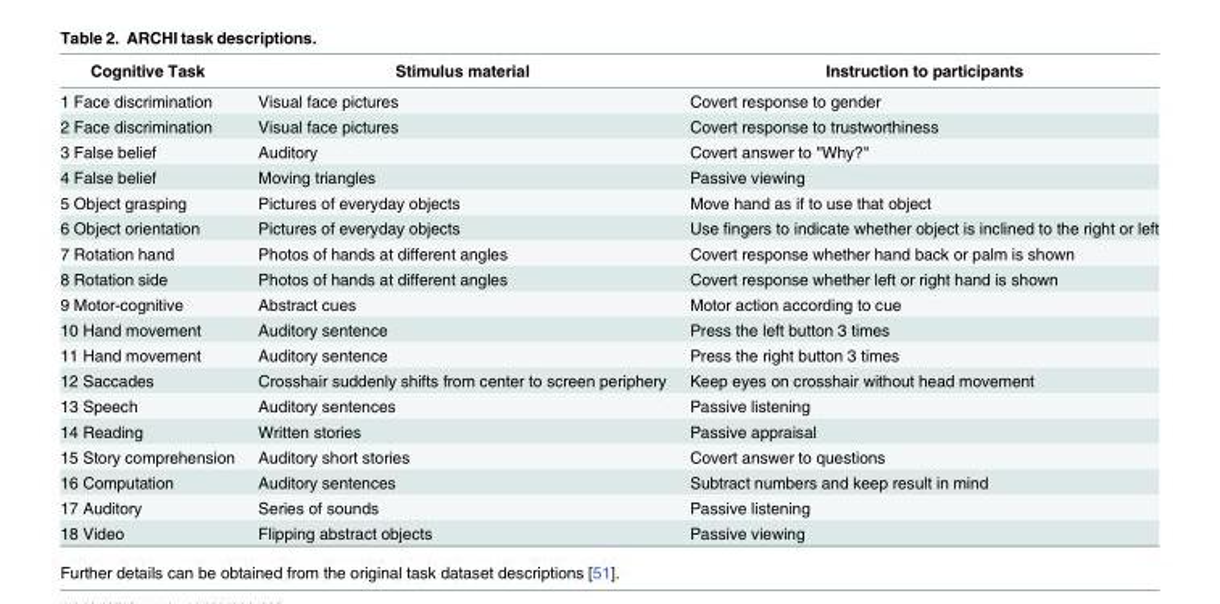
<table><thead><tr><td>Cognitive Task</td><td>Stimulus material</td><td>Instruction to participants</td></tr></thead><tbody><tr><td>1 Face discrimination</td><td>Visual face pictures</td><td>Covert response to gender</td></tr><tr><td>2 Face discrimination</td><td>Visual face pictures</td><td>Covert response to trustworthiness</td></tr><tr><td>3 False belief</td><td>Auditory</td><td>Covert answer to &quot;Why?&quot;</td></tr><tr><td>4 False belief</td><td>Moving triangles</td><td>Passive viewing</td></tr><tr><td>5 Object grasping</td><td>Pictures of everyday objects</td><td>Move hand as if to use that object</td></tr><tr><td>6 Object orientation</td><td>Pictures of everyday objects</td><td>Use fingers to indicate whether object is inclined to the right or left</td></tr><tr><td>7 Rotation hand</td><td>Photos of hands at different angles</td><td>Covert response whether hand back or palm is shown</td></tr><tr><td>8 Rotation side</td><td>Photos of hands at different angles</td><td>Covert response whether left or right hand is shown</td></tr><tr><td>9 Motor-cognitive</td><td>Abstract cues</td><td>Motor action according to cue</td></tr><tr><td>10 Hand movement</td><td>Auditory sentence</td><td>Press the left button 3 times</td></tr><tr><td>11 Hand movement</td><td>Auditory sentence</td><td>Press the right button 3 times</td></tr><tr><td>12 Saccades</td><td>Crosshair suddenly shifts from center to screen periphery</td><td>Keep eyes on crosshair without head movement</td></tr><tr><td>13 Speech</td><td>Auditory sentences</td><td>Passive listening</td></tr><tr><td>14 Reading</td><td>Written stories</td><td>Passive appraisal</td></tr><tr><td>15 Story comprehension</td><td>Auditory short stories</td><td>Covert answer to questions</td></tr><tr><td>16 Computation</td><td>Auditory sentences</td><td>Subtract numbers and keep result in mind</td></tr><tr><td>17 Auditory</td><td>Series of sounds</td><td>Passive listening</td></tr><tr><td>18 Video</td><td>Flipping abstract objects</td><td>Passive viewing</td></tr></tbody></table>